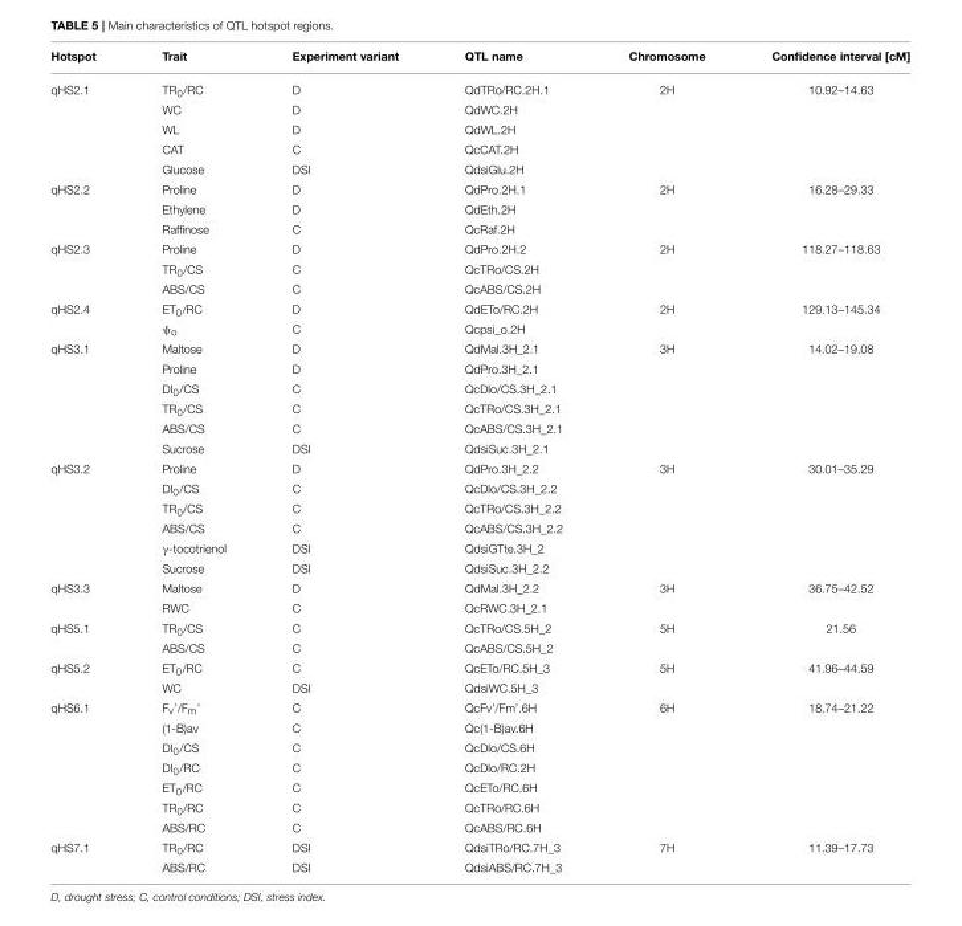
<table><thead><tr><td>Hotspot</td><td>Trait</td><td>Experiment variant</td><td>QTL name</td><td>Chromosome</td><td>Confidence interval [cM]</td></tr></thead><tbody><tr><td rowspan="5">qHS2.1</td><td>TR<sub>0</sub>/RC</td><td>D</td><td>QdTRo/RC.2H.1</td><td>2H</td><td>10.92–14.63</td></tr><tr><td>WC</td><td>D</td><td>QdWC.2H</td><td></td><td></td></tr><tr><td>WL</td><td>D</td><td>QdWL.2H</td><td></td><td></td></tr><tr><td>CAT</td><td>C</td><td>QcCAT.2H</td><td></td><td></td></tr><tr><td>Glucose</td><td>DSI</td><td>QdsiGlu.2H</td><td></td><td></td></tr><tr><td rowspan="3">qHS2.2</td><td>Proline</td><td>D</td><td>QdPro.2H.1</td><td>2H</td><td>16.28–29.33</td></tr><tr><td>Ethylene</td><td>D</td><td>QdEth.2H</td><td></td><td></td></tr><tr><td>Raffinose</td><td>C</td><td>QcRaf.2H</td><td></td><td></td></tr><tr><td rowspan="3">qHS2.3</td><td>Proline</td><td>D</td><td>QdPro.2H.2</td><td>2H</td><td>118.27–118.63</td></tr><tr><td>TR<sub>0</sub>/CS</td><td>C</td><td>QcTRo/CS.2H</td><td></td><td></td></tr><tr><td>ABS/CS</td><td>C</td><td>QcABS/CS.2H</td><td></td><td></td></tr><tr><td rowspan="2">qHS2.4</td><td>ET<sub>0</sub>/RC</td><td>D</td><td>QdETo/RC.2H</td><td>2H</td><td>129.13–145.34</td></tr><tr><td>ψ<sub>o</sub></td><td>C</td><td>Qcpsi_o.2H</td><td></td><td></td></tr><tr><td rowspan="6">qHS3.1</td><td>Maltose</td><td>D</td><td>QdMal.3H_2.1</td><td>3H</td><td>14.02–19.08</td></tr><tr><td>Proline</td><td>D</td><td>QdPro.3H_2.1</td><td></td><td></td></tr><tr><td>DI<sub>0</sub>/CS</td><td>C</td><td>QcDlo/CS.3H_2.1</td><td></td><td></td></tr><tr><td>TR<sub>0</sub>/CS</td><td>C</td><td>QcTRo/CS.3H_2.1</td><td></td><td></td></tr><tr><td>ABS/CS</td><td>C</td><td>QcABS/CS.3H_2.1</td><td></td><td></td></tr><tr><td>Sucrose</td><td>DSI</td><td>QdsiSuc.3H_2.1</td><td></td><td></td></tr><tr><td rowspan="6">qHS3.2</td><td>Proline</td><td>D</td><td>QdPro.3H_2.2</td><td>3H</td><td>30.01–35.29</td></tr><tr><td>DI<sub>0</sub>/CS</td><td>C</td><td>QcDlo/CS.3H_2.2</td><td></td><td></td></tr><tr><td>TR<sub>0</sub>/CS</td><td>C</td><td>QcTRo/CS.3H_2.2</td><td></td><td></td></tr><tr><td>ABS/CS</td><td>C</td><td>QcABS/CS.3H_2.2</td><td></td><td></td></tr><tr><td>γ-tocotrienol</td><td>DSI</td><td>QdsiGTte.3H_2</td><td></td><td></td></tr><tr><td>Sucrose</td><td>DSI</td><td>QdsiSuc.3H_2.2</td><td></td><td></td></tr><tr><td rowspan="2">qHS3.3</td><td>Maltose</td><td>D</td><td>QdMal.3H_2.2</td><td>3H</td><td>36.75–42.52</td></tr><tr><td>RWC</td><td>C</td><td>QcRWC.3H_2.1</td><td></td><td></td></tr><tr><td rowspan="2">qHS5.1</td><td>TR<sub>0</sub>/CS</td><td>C</td><td>QcTRo/CS.5H_2</td><td>5H</td><td>21.56</td></tr><tr><td>ABS/CS</td><td>C</td><td>QcABS/CS.5H_2</td><td></td><td></td></tr><tr><td rowspan="2">qHS5.2</td><td>ET<sub>0</sub>/RC</td><td>C</td><td>QcETo/RC.5H_3</td><td>5H</td><td>41.96–44.59</td></tr><tr><td>WC</td><td>DSI</td><td>QdsiWC.5H_3</td><td></td><td></td></tr><tr><td rowspan="7">qHS6.1</td><td>F<sub>v</sub>’/F<sub>m</sub>’</td><td>C</td><td>QcFv’/Fm’.6H</td><td>6H</td><td>18.74–21.22</td></tr><tr><td>(1-B)av</td><td>C</td><td>Qc(1-B)av.6H</td><td></td><td></td></tr><tr><td>DI<sub>0</sub>/CS</td><td>C</td><td>QcDlo/CS.6H</td><td></td><td></td></tr><tr><td>DI<sub>0</sub>/RC</td><td>C</td><td>QcDlo/RC.2H</td><td></td><td></td></tr><tr><td>ET<sub>0</sub>/RC</td><td>C</td><td>QcETo/RC.6H</td><td></td><td></td></tr><tr><td>TR<sub>0</sub>/RC</td><td>C</td><td>QcTRo/RC.6H</td><td></td><td></td></tr><tr><td>ABS/RC</td><td>C</td><td>QcABS/RC.6H</td><td></td><td></td></tr><tr><td rowspan="2">qHS7.1</td><td>TR<sub>0</sub>/RC</td><td>DSI</td><td>QdsiTRo/RC.7H_3</td><td>7H</td><td>11.39–17.73</td></tr><tr><td>ABS/RC</td><td>DSI</td><td>QdsiABS/RC.7H_3</td><td></td><td></td></tr></tbody></table>